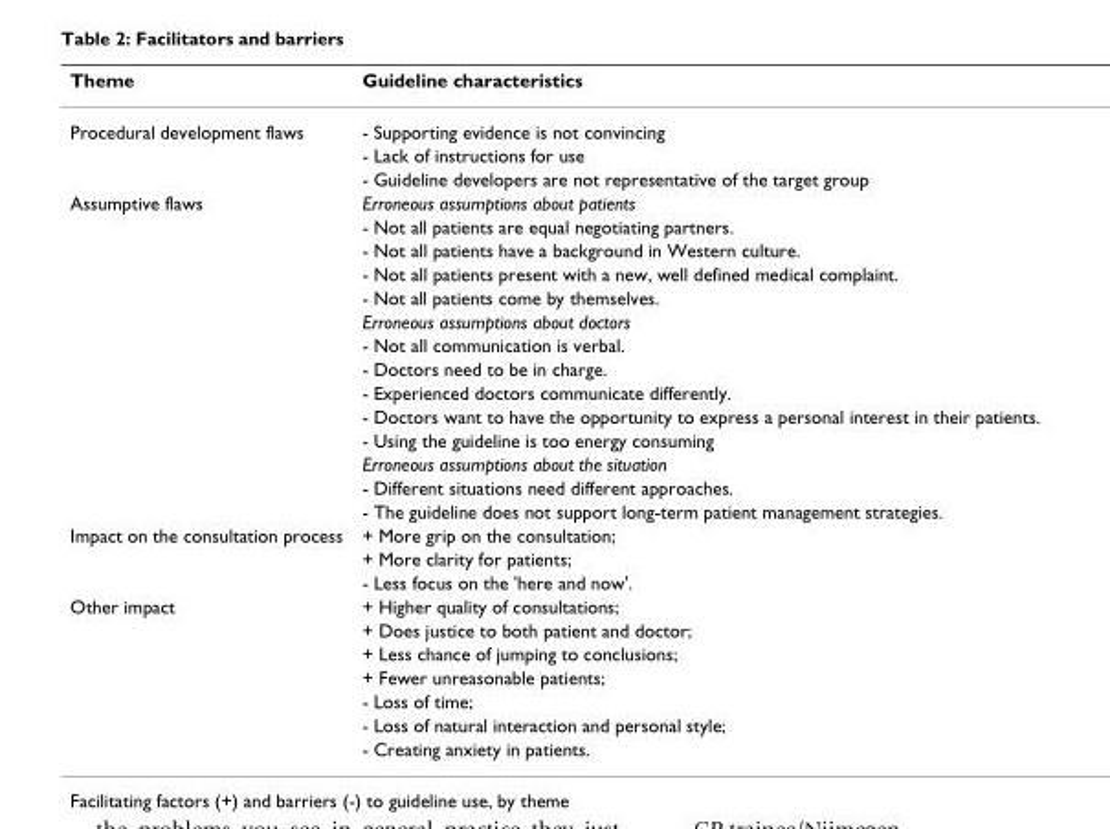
<table><thead><tr><td>Theme</td><td>Guideline characteristics</td></tr></thead><tbody><tr><td rowspan="3">Procedural development flaws</td><td>- Supporting evidence is not convincing</td></tr><tr><td>- Lack of instructions for use</td></tr><tr><td>- Guideline developers are not representative of the target group</td></tr><tr><td rowspan="14">Assumptive flaws</td><td>Erroneous assumptions about patients</td></tr><tr><td>- Not all patients are equal negotiating partners.</td></tr><tr><td>- Not all patients have a background in Western culture.</td></tr><tr><td>- Not all patients present with a new, well defined medical complaint.</td></tr><tr><td>- Not all patients come by themselves.</td></tr><tr><td>Erroneous assumptions about doctors</td></tr><tr><td>- Not all communication is verbal.</td></tr><tr><td>- Doctors need to be in charge.</td></tr><tr><td>- Experienced doctors communicate differently.</td></tr><tr><td>- Doctors want to have the opportunity to express a personal interest in their patients.</td></tr><tr><td>- Using the guideline is too energy consuming</td></tr><tr><td>Erroneous assumptions about the situation</td></tr><tr><td>- Different situations need different approaches.</td></tr><tr><td>- The guideline does not support long-term patient management strategies.</td></tr><tr><td rowspan="3">Impact on the consultation process</td><td>+ More grip on the consultation;</td></tr><tr><td>+ More clarity for patients;</td></tr><tr><td>- Less focus on the &#x27;here and now&#x27;.</td></tr><tr><td rowspan="7">Other impact</td><td>+ Higher quality of consultations;</td></tr><tr><td>+ Does justice to both patient and doctor;</td></tr><tr><td>+ Less chance of jumping to conclusions;</td></tr><tr><td>+ Fewer unreasonable patients;</td></tr><tr><td>- Loss of time;</td></tr><tr><td>- Loss of natural interaction and personal style;</td></tr><tr><td>- Creating anxiety in patients.</td></tr></tbody></table>